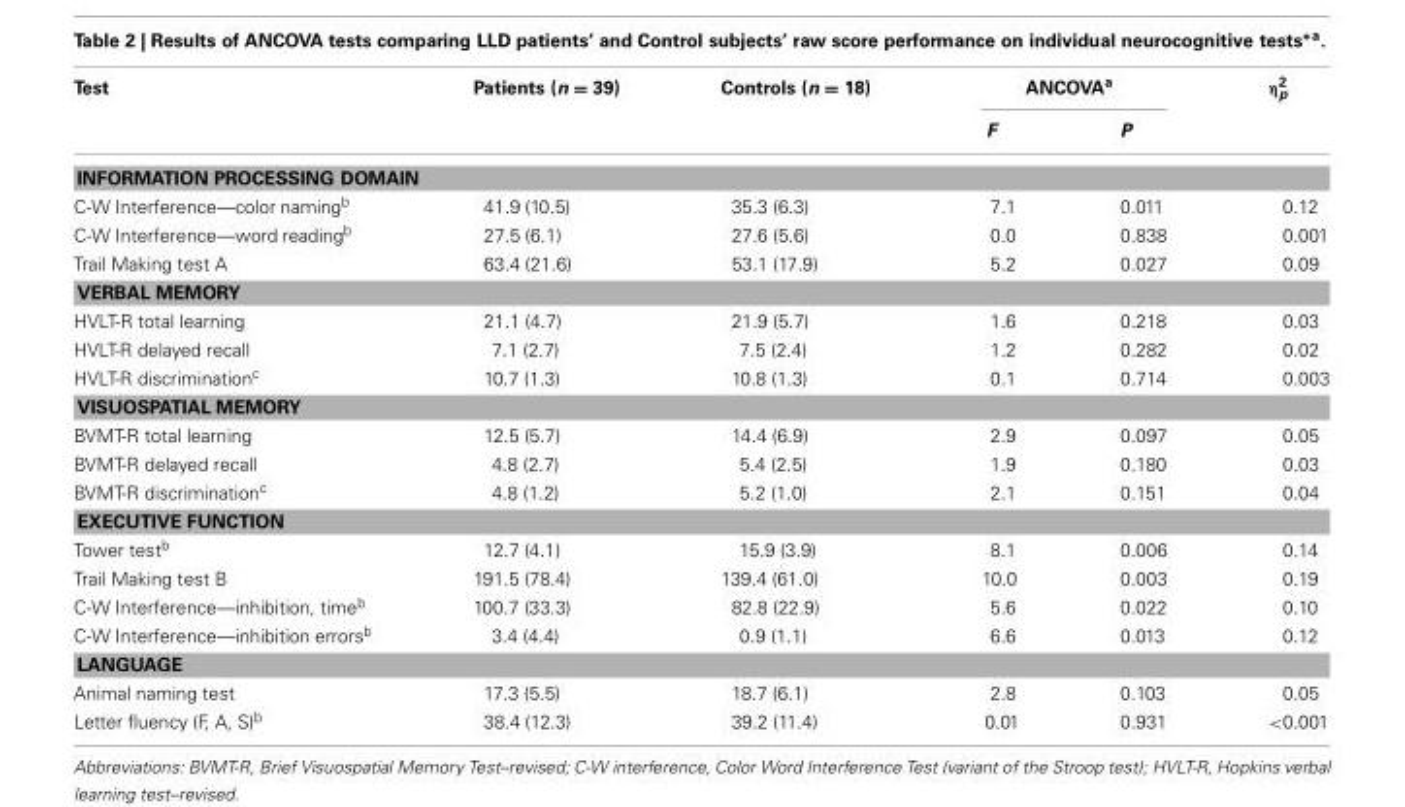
<table><thead><tr><td rowspan="2">Test</td><td rowspan="2">Patients (n = 39)</td><td rowspan="2">Controls (n = 18)</td><td colspan="2">ANCOVA<sup>a</sup></td><td rowspan="2">η<sup>2</sup> <sub>p</sub></td></tr><tr><td>F</td><td>P</td></tr></thead><tbody><tr><td colspan="6">INFORMATION PROCESSING DOMAIN</td></tr><tr><td>C-W Interference—color naming<sup>b</sup></td><td>41.9 (10.5)</td><td>35.3 (6.3)</td><td>7.1</td><td>0.011</td><td>0.12</td></tr><tr><td>C-W Interference—word reading<sup>b</sup></td><td>27.5 (6.1)</td><td>27.6 (5.6)</td><td>0.0</td><td>0.838</td><td>0.001</td></tr><tr><td>Trail Making test A</td><td>63.4 (21.6)</td><td>53.1 (17.9)</td><td>5.2</td><td>0.027</td><td>0.09</td></tr><tr><td colspan="6">VERBAL MEMORY</td></tr><tr><td>HVLT-R total learning</td><td>21.1 (4.7)</td><td>21.9 (5.7)</td><td>1.6</td><td>0.218</td><td>0.03</td></tr><tr><td>HVLT-R delayed recall</td><td>7.1 (2.7)</td><td>7.5 (2.4)</td><td>1.2</td><td>0.282</td><td>0.02</td></tr><tr><td>HVLT-R discrimination<sup>c</sup></td><td>10.7 (1.3)</td><td>10.8 (1.3)</td><td>0.1</td><td>0.714</td><td>0.003</td></tr><tr><td colspan="6">VISUOSPATIAL MEMORY</td></tr><tr><td>BVMT-R total learning</td><td>12.5 (5.7)</td><td>14.4 (6.9)</td><td>2.9</td><td>0.097</td><td>0.05</td></tr><tr><td>BVMT-R delayed recall</td><td>4.8 (2.7)</td><td>5.4 (2.5)</td><td>1.9</td><td>0.180</td><td>0.03</td></tr><tr><td>BVMT-R discrimination<sup>c</sup></td><td>4.8 (1.2)</td><td>5.2 (1.0)</td><td>2.1</td><td>0.151</td><td>0.04</td></tr><tr><td colspan="6">EXECUTIVE FUNCTION</td></tr><tr><td>Tower test<sup>b</sup></td><td>12.7 (4.1)</td><td>15.9 (3.9)</td><td>8.1</td><td>0.006</td><td>0.14</td></tr><tr><td>Trail Making test B</td><td>191.5 (78.4)</td><td>139.4 (61.0)</td><td>10.0</td><td>0.003</td><td>0.19</td></tr><tr><td>C-W Interference—inhibition, time<sup>b</sup></td><td>100.7 (33.3)</td><td>82.8 (22.9)</td><td>5.6</td><td>0.022</td><td>0.10</td></tr><tr><td>C-W Interference—inhibition errors<sup>b</sup></td><td>3.4 (4.4)</td><td>0.9 (1.1)</td><td>6.6</td><td>0.013</td><td>0.12</td></tr><tr><td colspan="6">LANGUAGE</td></tr><tr><td>Animal naming test</td><td>17.3 (5.5)</td><td>18.7 (6.1)</td><td>2.8</td><td>0.103</td><td>0.05</td></tr><tr><td>Letter fluency (F, A, S)<sup>b</sup></td><td>38.4 (12.3)</td><td>39.2 (11.4)</td><td>0.01</td><td>0.931</td><td>&lt;0.001</td></tr></tbody></table>